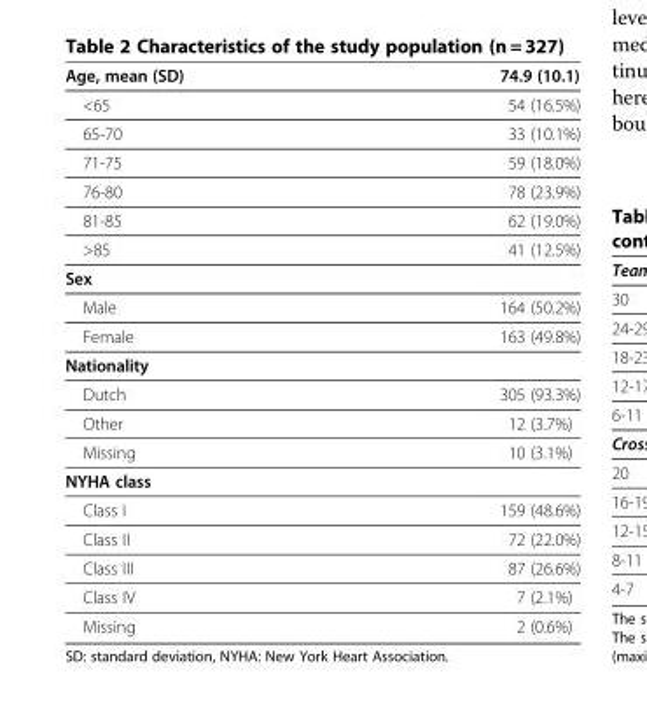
<table><thead><tr><td>Age, mean (SD)</td><td>74.9 (10.1)</td></tr></thead><tbody><tr><td>&lt;65</td><td>54 (16.5%)</td></tr><tr><td>65-70</td><td>33 (10.1%)</td></tr><tr><td>71-75</td><td>59 (18.0%)</td></tr><tr><td>76-80</td><td>78 (23.9%)</td></tr><tr><td>81-85</td><td>62 (19.0%)</td></tr><tr><td>&gt;85</td><td>41 (12.5%)</td></tr><tr><td colspan="2">Sex</td></tr><tr><td>Male</td><td>164 (50.2%)</td></tr><tr><td>Female</td><td>163 (49.8%)</td></tr><tr><td colspan="2">Nationality</td></tr><tr><td>Dutch</td><td>305 (93.3%)</td></tr><tr><td>Other</td><td>12 (3.7%)</td></tr><tr><td>Missing</td><td>10 (3.1%)</td></tr><tr><td colspan="2">NYHA class</td></tr><tr><td>Class I</td><td>159 (48.6%)</td></tr><tr><td>Class II</td><td>72 (22.0%)</td></tr><tr><td>Class III</td><td>87 (26.6%)</td></tr><tr><td>Class IV</td><td>7 (2.1%)</td></tr><tr><td>Missing</td><td>2 (0.6%)</td></tr></tbody></table>